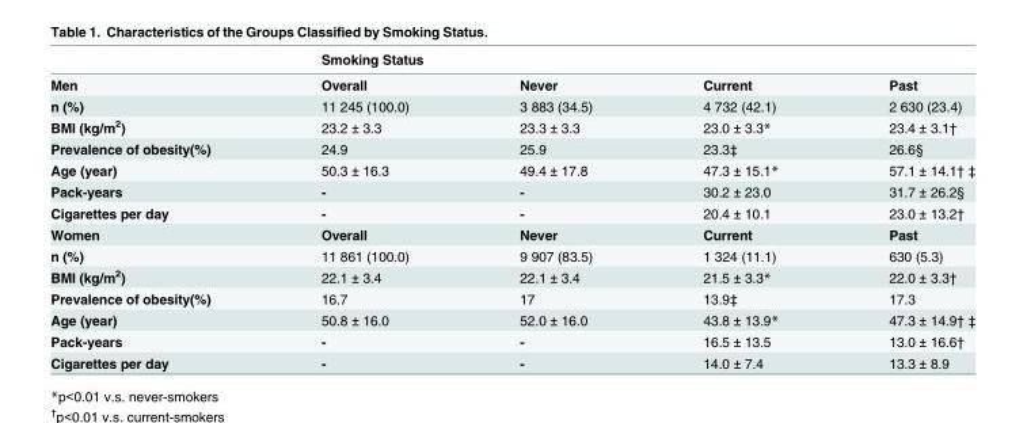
<table><thead><tr><td rowspan="2">Men</td><td colspan="4">Smoking Status</td></tr><tr><td>Overall</td><td>Never</td><td>Current</td><td>Past</td></tr></thead><tbody><tr><td>n (%)</td><td>11 245 (100.0)</td><td>3 883 (34.5)</td><td>4 732 (42.1)</td><td>2 630 (23.4)</td></tr><tr><td>BMI (kg/m<sup>2</sup>)</td><td>23.2 ± 3.3</td><td>23.3 ± 3.3</td><td>23.0 ± 3.3*</td><td>23.4 ± 3.1†</td></tr><tr><td>Prevalence of obesity(%)</td><td>24.9</td><td>25.9</td><td>23.3‡</td><td>26.6§</td></tr><tr><td>Age (year)</td><td>50.3 ± 16.3</td><td>49.4 ± 17.8</td><td>47.3 ± 15.1*</td><td>57.1 ± 14.1† ‡</td></tr><tr><td>Pack-years</td><td>-</td><td>-</td><td>30.2 ± 23.0</td><td>31.7 ± 26.2§</td></tr><tr><td>Cigarettes per day</td><td>-</td><td>-</td><td>20.4 ± 10.1</td><td>23.0 ± 13.2†</td></tr><tr><td>Women</td><td>Overall</td><td>Never</td><td>Current</td><td>Past</td></tr><tr><td>n (%)</td><td>11 861 (100.0)</td><td>9 907 (83.5)</td><td>1 324 (11.1)</td><td>630 (5.3)</td></tr><tr><td>BMI (kg/m<sup>2</sup>)</td><td>22.1 ± 3.4</td><td>22.1 ± 3.4</td><td>21.5 ± 3.3*</td><td>22.0 ± 3.3†</td></tr><tr><td>Prevalence of obesity(%)</td><td>16.7</td><td>17</td><td>13.9‡</td><td>17.3</td></tr><tr><td>Age (year)</td><td>50.8 ± 16.0</td><td>52.0 ± 16.0</td><td>43.8 ± 13.9*</td><td>47.3 ± 14.9† ‡</td></tr><tr><td>Pack-years</td><td>-</td><td>-</td><td>16.5 ± 13.5</td><td>13.0 ± 16.6†</td></tr><tr><td>Cigarettes per day</td><td>-</td><td>-</td><td>14.0 ± 7.4</td><td>13.3 ± 8.9</td></tr></tbody></table>